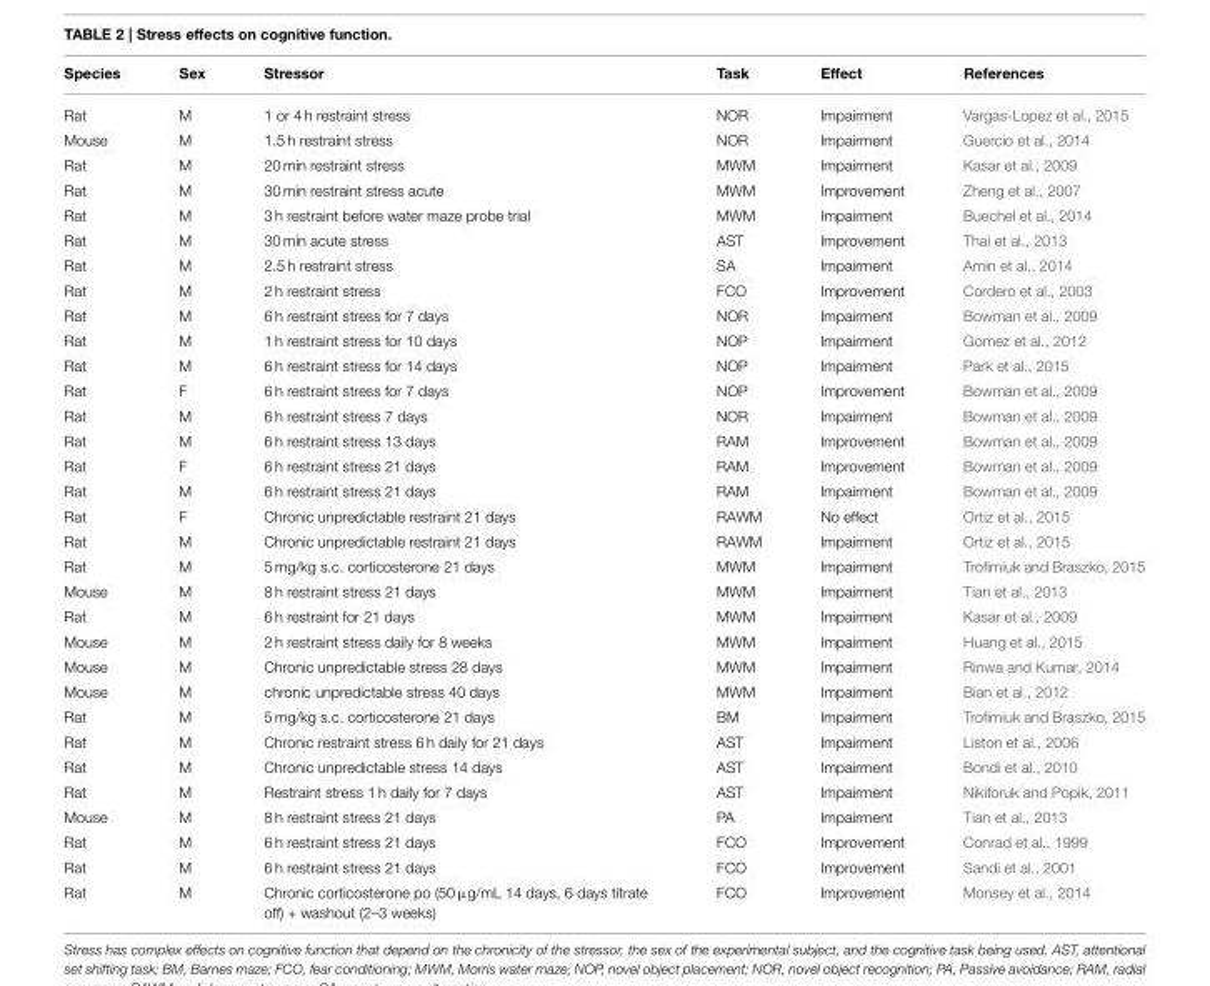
<table><thead><tr><td>Species</td><td>Sex</td><td>Stressor</td><td>Task</td><td>Effect</td><td>References</td></tr></thead><tbody><tr><td>Rat</td><td>M</td><td>1 or 4 h restraint stress</td><td>NOR</td><td>Impairment</td><td>Vargas-Lopez et al., 2015</td></tr><tr><td>Mouse</td><td>M</td><td>1.5 h restraint stress</td><td>NOR</td><td>Impairment</td><td>Guercio et al., 2014</td></tr><tr><td>Rat</td><td>M</td><td>20 min restraint stress</td><td>MWM</td><td>Impairment</td><td>Kasar et al., 2009</td></tr><tr><td>Rat</td><td>M</td><td>30 min restraint stress acute</td><td>MWM</td><td>Improvement</td><td>Zheng et al., 2007</td></tr><tr><td>Rat</td><td>M</td><td>3 h restraint before water maze probe trial</td><td>MWM</td><td>Impairment</td><td>Buechel et al., 2014</td></tr><tr><td>Rat</td><td>M</td><td>30 min acute stress</td><td>AST</td><td>Improvement</td><td>Thai et al., 2013</td></tr><tr><td>Rat</td><td>M</td><td>2.5 h restraint stress</td><td>SA</td><td>Impairment</td><td>Amin et al., 2014</td></tr><tr><td>Rat</td><td>M</td><td>2 h restraint stress</td><td>FCO</td><td>Improvement</td><td>Cordero et al., 2003</td></tr><tr><td>Rat</td><td>M</td><td>6 h restraint stress for 7 days</td><td>NOR</td><td>Impairment</td><td>Bowman et al., 2009</td></tr><tr><td>Rat</td><td>M</td><td>1 h restraint stress for 10 days</td><td>NOP</td><td>Impairment</td><td>Gomez et al., 2012</td></tr><tr><td>Rat</td><td>M</td><td>6 h restraint stress for 14 days</td><td>NOP</td><td>Impairment</td><td>Park et al., 2015</td></tr><tr><td>Rat</td><td>F</td><td>6 h restraint stress for 7 days</td><td>NOP</td><td>Improvement</td><td>Bowman et al., 2009</td></tr><tr><td>Rat</td><td>M</td><td>6 h restraint stress 7 days</td><td>NOR</td><td>Impairment</td><td>Bowman et al., 2009</td></tr><tr><td>Rat</td><td>M</td><td>6 h restraint stress 13 days</td><td>RAM</td><td>Improvement</td><td>Bowman et al., 2009</td></tr><tr><td>Rat</td><td>F</td><td>6 h restraint stress 21 days</td><td>RAM</td><td>Improvement</td><td>Bowman et al., 2009</td></tr><tr><td>Rat</td><td>M</td><td>6 h restraint stress 21 days</td><td>RAM</td><td>Impairment</td><td>Bowman et al., 2009</td></tr><tr><td>Rat</td><td>F</td><td>Chronic unpredictable restraint 21 days</td><td>RAWM</td><td>No effect</td><td>Ortiz et al., 2015</td></tr><tr><td>Rat</td><td>M</td><td>Chronic unpredictable restraint 21 days</td><td>RAWM</td><td>Impairment</td><td>Ortiz et al., 2015</td></tr><tr><td>Rat</td><td>M</td><td>5 mg/kg s.c. corticosterone 21 days</td><td>MWM</td><td>Impairment</td><td>Trofimiuk and Braszko, 2015</td></tr><tr><td>Mouse</td><td>M</td><td>8 h restraint stress 21 days</td><td>MWM</td><td>Impairment</td><td>Tian et al., 2013</td></tr><tr><td>Rat</td><td>M</td><td>6 h restraint for 21 days</td><td>MWM</td><td>Impairment</td><td>Kasar et al., 2009</td></tr><tr><td>Mouse</td><td>M</td><td>2 h restraint stress daily for 8 weeks</td><td>MWM</td><td>Impairment</td><td>Huang et al., 2015</td></tr><tr><td>Mouse</td><td>M</td><td>Chronic unpredictable stress 28 days</td><td>MWM</td><td>Impairment</td><td>Rinwa and Kumar, 2014</td></tr><tr><td>Mouse</td><td>M</td><td>chronic unpredictable stress 40 days</td><td>MWM</td><td>Impairment</td><td>Bian et al., 2012</td></tr><tr><td>Rat</td><td>M</td><td>5 mg/kg s.c. corticosterone 21 days</td><td>BM</td><td>Impairment</td><td>Trofimiuk and Braszko, 2015</td></tr><tr><td>Rat</td><td>M</td><td>Chronic restraint stress 6 h daily for 21 days</td><td>AST</td><td>Impairment</td><td>Liston et al., 2006</td></tr><tr><td>Rat</td><td>M</td><td>Chronic unpredictable stress 14 days</td><td>AST</td><td>Impairment</td><td>Bondi et al., 2010</td></tr><tr><td>Rat</td><td>M</td><td>Restraint stress 1 h daily for 7 days</td><td>AST</td><td>Impairment</td><td>Nikiforuk and Popik, 2011</td></tr><tr><td>Mouse</td><td>M</td><td>8 h restraint stress 21 days</td><td>PA</td><td>Impairment</td><td>Tian et al., 2013</td></tr><tr><td>Rat</td><td>M</td><td>6 h restraint stress 21 days</td><td>FCO</td><td>Improvement</td><td>Conrad et al., 1999</td></tr><tr><td>Rat</td><td>M</td><td>6 h restraint stress 21 days</td><td>FCO</td><td>Improvement</td><td>Sandi et al., 2001</td></tr><tr><td>Rat</td><td>M</td><td>Chronic corticosterone po (50 μg/mL 14 days, 6 days titrate off) + washout (2–3 weeks)</td><td>FCO</td><td>Improvement</td><td>Monsey et al., 2014</td></tr></tbody></table>